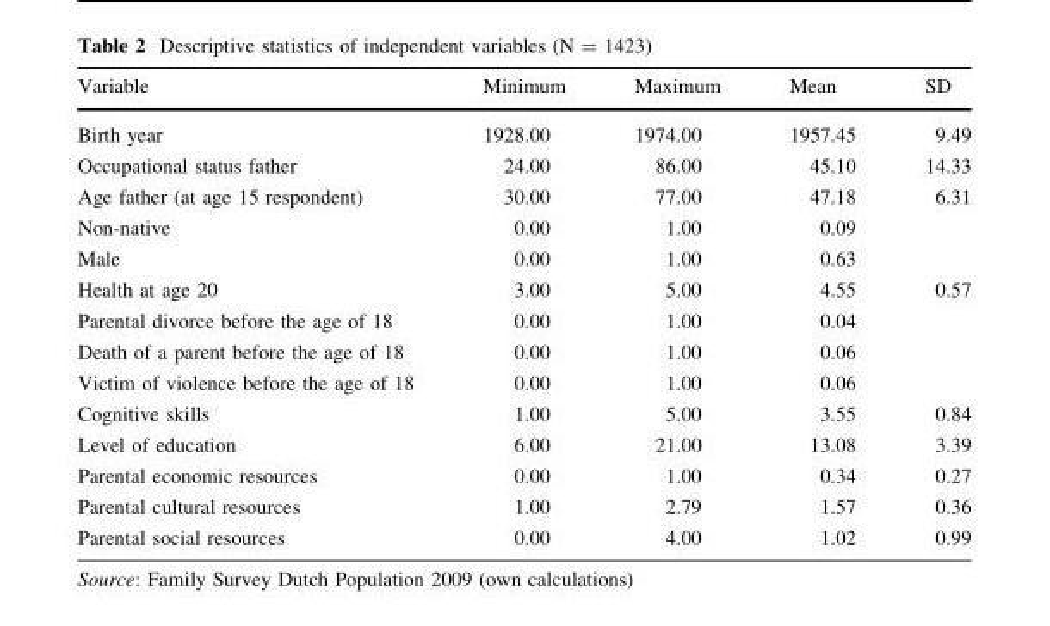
<table><thead><tr><td>Variable</td><td>Minimum</td><td>Maximum</td><td>Mean</td><td>SD</td></tr></thead><tbody><tr><td>Birth year</td><td>1928.00</td><td>1974.00</td><td>1957.45</td><td>9.49</td></tr><tr><td>Occupational status father</td><td>24.00</td><td>86.00</td><td>45.10</td><td>14.33</td></tr><tr><td>Age father (at age 15 respondent)</td><td>30.00</td><td>77.00</td><td>47.18</td><td>6.31</td></tr><tr><td>Non-native</td><td>0.00</td><td>1.00</td><td>0.09</td><td></td></tr><tr><td>Male</td><td>0.00</td><td>1.00</td><td>0.63</td><td></td></tr><tr><td>Health at age 20</td><td>3.00</td><td>5.00</td><td>4.55</td><td>0.57</td></tr><tr><td>Parental divorce before the age of 18</td><td>0.00</td><td>1.00</td><td>0.04</td><td></td></tr><tr><td>Death of a parent before the age of 18</td><td>0.00</td><td>1.00</td><td>0.06</td><td></td></tr><tr><td>Victim of violence before the age of 18</td><td>0.00</td><td>1.00</td><td>0.06</td><td></td></tr><tr><td>Cognitive skills</td><td>1.00</td><td>5.00</td><td>3.55</td><td>0.84</td></tr><tr><td>Level of education</td><td>6.00</td><td>21.00</td><td>13.08</td><td>3.39</td></tr><tr><td>Parental economic resources</td><td>0.00</td><td>1.00</td><td>0.34</td><td>0.27</td></tr><tr><td>Parental cultural resources</td><td>1.00</td><td>2.79</td><td>1.57</td><td>0.36</td></tr><tr><td>Parental social resources</td><td>0.00</td><td>4.00</td><td>1.02</td><td>0.99</td></tr></tbody></table>